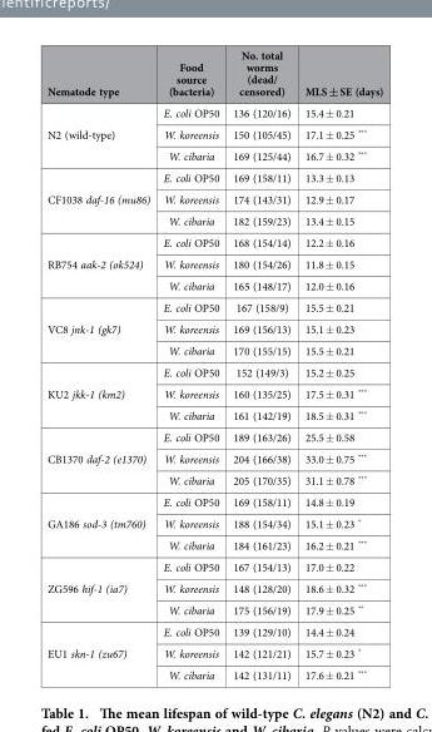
<table><thead><tr><td>Nematode type</td><td>Food source (bacteria)</td><td>No. total worms (dead/ censored)</td><td>MLS ± SE (days)</td></tr></thead><tbody><tr><td rowspan="3">N2 (wild-type)</td><td>E. coli OP50</td><td>136 (120/16)</td><td>15.4 ± 0.21</td></tr><tr><td>W. koreensis</td><td>150 (105/45)</td><td>17.1 ± 0.25 ***</td></tr><tr><td>W. cibaria</td><td>169 (125/44)</td><td>16.7 ± 0.32 ***</td></tr><tr><td rowspan="3">CF1038 daf-16 (mu86)</td><td>E. coli OP50</td><td>169 (158/11)</td><td>13.3 ± 0.13</td></tr><tr><td>W. koreensis</td><td>174 (143/31)</td><td>12.9 ± 0.17</td></tr><tr><td>W. cibaria</td><td>182 (159/23)</td><td>13.4 ± 0.15</td></tr><tr><td rowspan="3">RB754 aak-2 (ok524)</td><td>E. coli OP50</td><td>168 (154/14)</td><td>12.2 ± 0.16</td></tr><tr><td>W. koreensis</td><td>180 (154/26)</td><td>11.8 ± 0.15</td></tr><tr><td>W. cibaria</td><td>165 (148/17)</td><td>12.0 ± 0.16</td></tr><tr><td rowspan="3">VC8 jnk-1 (gk7)</td><td>E. coli OP50</td><td>167 (158/9)</td><td>15.5 ± 0.21</td></tr><tr><td>W. koreensis</td><td>169 (156/13)</td><td>15.1 ± 0.23</td></tr><tr><td>W. cibaria</td><td>170 (155/15)</td><td>15.5 ± 0.21</td></tr><tr><td rowspan="3">KU2 jkk-1 (km2)</td><td>E. coli OP50</td><td>152 (149/3)</td><td>15.2 ± 0.25</td></tr><tr><td>W. koreensis</td><td>160 (135/25)</td><td>17.5 ± 0.31 ***</td></tr><tr><td>W. cibaria</td><td>161 (142/19)</td><td>18.5 ± 0.31 ***</td></tr><tr><td rowspan="3">CB1370 daf-2 (e1370)</td><td>E. coli OP50</td><td>189 (163/26)</td><td>25.5 ± 0.58</td></tr><tr><td>W. koreensis</td><td>204 (166/38)</td><td>33.0 ± 0.75 ***</td></tr><tr><td>W. cibaria</td><td>205 (170/35)</td><td>31.1 ± 0.78 ***</td></tr><tr><td rowspan="3">GA186 sod-3 (tm760)</td><td>E. coli OP50</td><td>169 (158/11)</td><td>14.8 ± 0.19</td></tr><tr><td>W. koreensis</td><td>188 (154/34)</td><td>15.1 ± 0.23 *</td></tr><tr><td>W. cibaria</td><td>184 (161/23)</td><td>16.2 ± 0.21 ***</td></tr><tr><td rowspan="3">ZG596 hif-1 (ia7)</td><td>E. coli OP50</td><td>167 (154/13)</td><td>17.0 ± 0.22</td></tr><tr><td>W. koreensis</td><td>148 (128/20)</td><td>18.6 ± 0.32 ***</td></tr><tr><td>W. cibaria</td><td>175 (156/19)</td><td>17.9 ± 0.25 **</td></tr><tr><td rowspan="3">EU1 skn-1 (zu67)</td><td>E. coli OP50</td><td>139 (129/10)</td><td>14.4 ± 0.24</td></tr><tr><td>W. koreensis</td><td>142 (121/21)</td><td>15.7 ± 0.23 *</td></tr><tr><td>W. cibaria</td><td>142 (131/11)</td><td>17.6 ± 0.21 ***</td></tr></tbody></table>